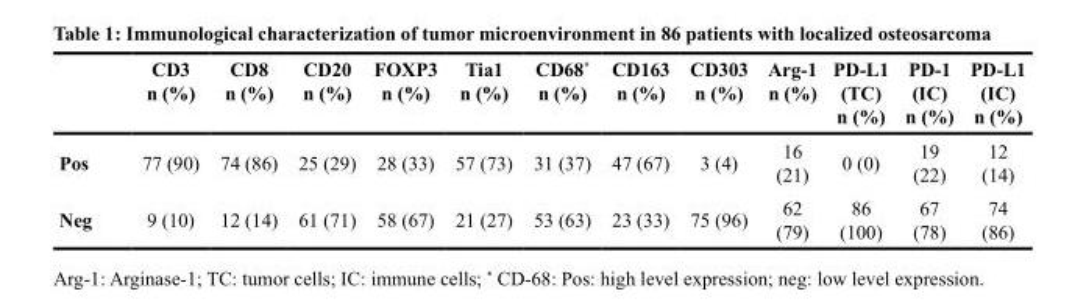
<table><thead><tr><td></td><td>CD3 n (%)</td><td>CD8 n (%)</td><td>CD20 n (%)</td><td>FOXP3 n (%)</td><td>Tia1 n (%)</td><td>CD68* n (%)</td><td>CD163 n (%)</td><td>CD303 n (%)</td><td>Arg-1 n (%)</td><td>PD-L1 (TC) n (%)</td><td>PD-1 (IC) n (%)</td><td>PD-L1 (IC) n (%)</td></tr></thead><tbody><tr><td>Pos</td><td>77 (90)</td><td>74 (86)</td><td>25 (29)</td><td>28 (33)</td><td>57 (73)</td><td>31 (37)</td><td>47 (67)</td><td>3 (4)</td><td>16 (21)</td><td>0 (0)</td><td>19 (22)</td><td>12 (14)</td></tr><tr><td>Neg</td><td>9 (10)</td><td>12 (14)</td><td>61 (71)</td><td>58 (67)</td><td>21 (27)</td><td>53 (63)</td><td>23 (33)</td><td>75 (96)</td><td>62 (79)</td><td>86 (100)</td><td>67 (78)</td><td>74 (86)</td></tr></tbody></table>